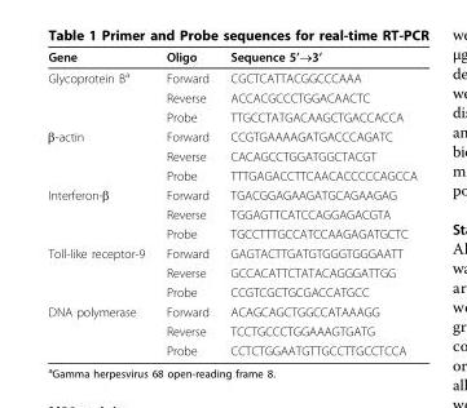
<table><thead><tr><td>Gene</td><td>Oligo</td><td>Sequence 5’→3’</td></tr></thead><tbody><tr><td rowspan="3">Glycoprotein B<sup>a</sup></td><td>Forward</td><td>CGCTCATTACGGCCCAAA</td></tr><tr><td>Reverse</td><td>ACCACGCCCTGGACAACTC</td></tr><tr><td>Probe</td><td>TTGCCTATGACAAGCTGACCACCA</td></tr><tr><td rowspan="3">β-actin</td><td>Forward</td><td>CCGTGAAAAGATGACCCAGATC</td></tr><tr><td>Reverse</td><td>CACAGCCTGGATGGCTACGT</td></tr><tr><td>Probe</td><td>TTTGAGACCTTCAACACCCCCAGCCA</td></tr><tr><td rowspan="3">Interferon-β</td><td>Forward</td><td>TGACGGAGAAGATGCAGAAGAG</td></tr><tr><td>Reverse</td><td>TGGAGTTCATCCAGGAGACGTA</td></tr><tr><td>Probe</td><td>TGCCTTTGCCATCCAAGAGATGCTC</td></tr><tr><td rowspan="3">Toll-like receptor-9</td><td>Forward</td><td>GAGTACTTGATGTGGGTGGGAATT</td></tr><tr><td>Reverse</td><td>GCCACATTCTATACAGGGATTGG</td></tr><tr><td>Probe</td><td>CCGTCGCTGCGACCATGCC</td></tr><tr><td rowspan="3">DNA polymerase</td><td>Forward</td><td>ACAGCAGCTGGCCATAAAGG</td></tr><tr><td>Reverse</td><td>TCCTGCCCTGGAAAGTGATG</td></tr><tr><td>Probe</td><td>CCTCTGGAATGTTGCCTTGCCTCCA</td></tr></tbody></table>